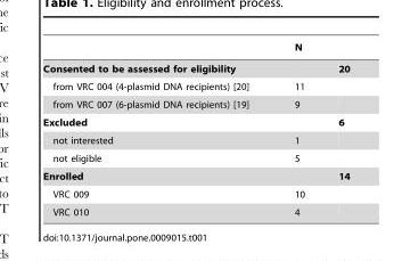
<table><thead><tr><td rowspan="2">Consented to be assessed for eligibility</td><td colspan="2">N</td></tr><tr><td></td><td>20</td></tr></thead><tbody><tr><td>from VRC 004 (4-plasmid DNA recipients) [20]</td><td>11</td><td></td></tr><tr><td>from VRC 007 (6-plasmid DNA recipients) [19]</td><td>9</td><td></td></tr><tr><td>Excluded</td><td></td><td>6</td></tr><tr><td>not interested</td><td>1</td><td></td></tr><tr><td>not eligible</td><td>5</td><td></td></tr><tr><td>Enrolled</td><td></td><td>14</td></tr><tr><td>VRC 009</td><td>10</td><td></td></tr><tr><td>VRC 010</td><td>4</td><td></td></tr></tbody></table>